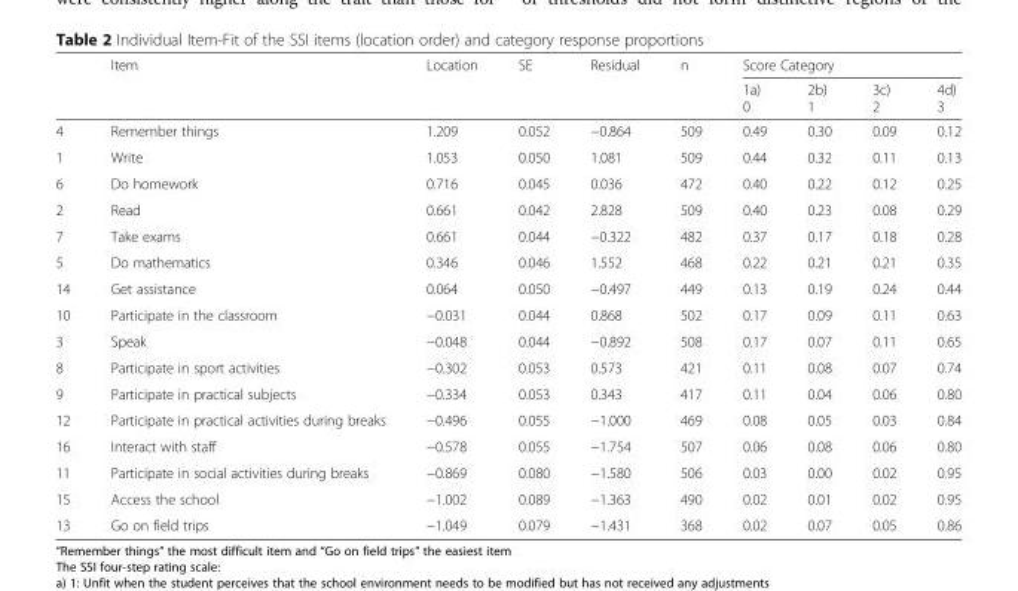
<table><thead><tr><td rowspan="2"></td><td rowspan="2">Item</td><td rowspan="2">Location</td><td rowspan="2">SE</td><td rowspan="2">Residual</td><td rowspan="2">n</td><td colspan="4">Score Category</td></tr><tr><td>1a) 0</td><td>2b) 1</td><td>3c) 2</td><td>4d) 3</td></tr></thead><tbody><tr><td>4</td><td>Remember things</td><td>1.209</td><td>0.052</td><td>−0.864</td><td>509</td><td>0.49</td><td>0.30</td><td>0.09</td><td>0.12</td></tr><tr><td>1</td><td>Write</td><td>1.053</td><td>0.050</td><td>1.081</td><td>509</td><td>0.44</td><td>0.32</td><td>0.11</td><td>0.13</td></tr><tr><td>6</td><td>Do homework</td><td>0.716</td><td>0.045</td><td>0.036</td><td>472</td><td>0.40</td><td>0.22</td><td>0.12</td><td>0.25</td></tr><tr><td>2</td><td>Read</td><td>0.661</td><td>0.042</td><td>2.828</td><td>509</td><td>0.40</td><td>0.23</td><td>0.08</td><td>0.29</td></tr><tr><td>7</td><td>Take exams</td><td>0.661</td><td>0.044</td><td>−0.322</td><td>482</td><td>0.37</td><td>0.17</td><td>0.18</td><td>0.28</td></tr><tr><td>5</td><td>Do mathematics</td><td>0.346</td><td>0.046</td><td>1.552</td><td>468</td><td>0.22</td><td>0.21</td><td>0.21</td><td>0.35</td></tr><tr><td>14</td><td>Get assistance</td><td>0.064</td><td>0.050</td><td>−0.497</td><td>449</td><td>0.13</td><td>0.19</td><td>0.24</td><td>0.44</td></tr><tr><td>10</td><td>Participate in the classroom</td><td>−0.031</td><td>0.044</td><td>0.868</td><td>502</td><td>0.17</td><td>0.09</td><td>0.11</td><td>0.63</td></tr><tr><td>3</td><td>Speak</td><td>−0.048</td><td>0.044</td><td>−0.892</td><td>508</td><td>0.17</td><td>0.07</td><td>0.11</td><td>0.65</td></tr><tr><td>8</td><td>Participate in sport activities</td><td>−0.302</td><td>0.053</td><td>0.573</td><td>421</td><td>0.11</td><td>0.08</td><td>0.07</td><td>0.74</td></tr><tr><td>9</td><td>Participate in practical subjects</td><td>−0.334</td><td>0.053</td><td>0.343</td><td>417</td><td>0.11</td><td>0.04</td><td>0.06</td><td>0.80</td></tr><tr><td>12</td><td>Participate in practical activities during breaks</td><td>−0.496</td><td>0.055</td><td>−1.000</td><td>469</td><td>0.08</td><td>0.05</td><td>0.03</td><td>0.84</td></tr><tr><td>16</td><td>Interact with staff</td><td>−0.578</td><td>0.055</td><td>−1.754</td><td>507</td><td>0.06</td><td>0.08</td><td>0.06</td><td>0.80</td></tr><tr><td>11</td><td>Participate in social activities during breaks</td><td>−0.869</td><td>0.080</td><td>−1.580</td><td>506</td><td>0.03</td><td>0.00</td><td>0.02</td><td>0.95</td></tr><tr><td>15</td><td>Access the school</td><td>−1.002</td><td>0.089</td><td>−1.363</td><td>490</td><td>0.02</td><td>0.01</td><td>0.02</td><td>0.95</td></tr><tr><td>13</td><td>Go on field trips</td><td>−1.049</td><td>0.079</td><td>−1.431</td><td>368</td><td>0.02</td><td>0.07</td><td>0.05</td><td>0.86</td></tr></tbody></table>